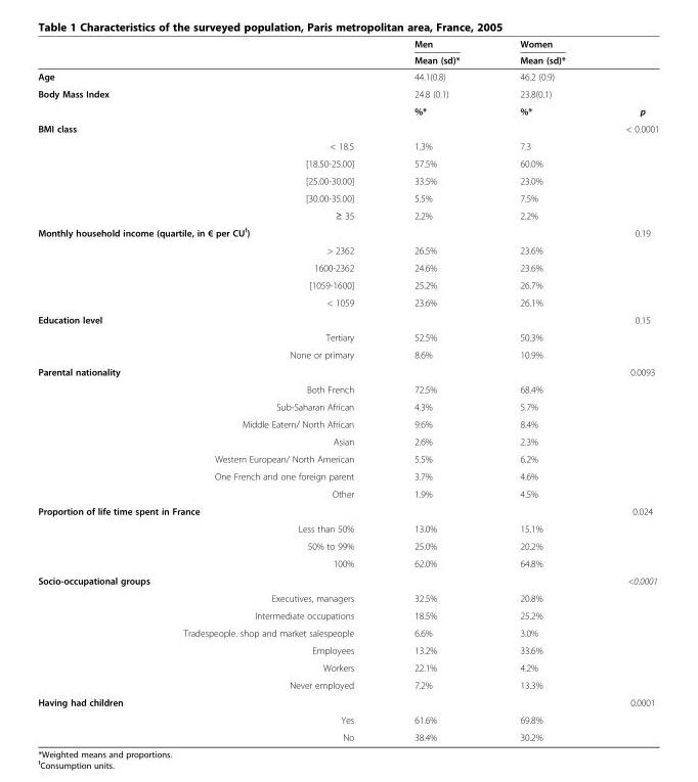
<table><thead><tr><td rowspan="2"></td><td rowspan="2"></td><td rowspan="2">Men Mean (sd)*</td><td rowspan="2">Women Mean (sd)*</td><td rowspan="2"></td></tr><tr></tr></thead><tbody><tr><td>Age</td><td></td><td>44.1(0.8)</td><td>46.2 (0.9)</td><td></td></tr><tr><td rowspan="2">Body Mass Index</td><td></td><td>24.8 (0.1)</td><td>23.8(0.1)</td><td></td></tr><tr><td></td><td>%*</td><td>%*</td><td>p</td></tr><tr><td colspan="2">BMI class</td><td></td><td></td><td>&lt; 0.0001</td></tr><tr><td></td><td>&lt; 18.5</td><td>1.3%</td><td>7.3</td><td></td></tr><tr><td></td><td>[18.50-25.00]</td><td>57.5%</td><td>60.0%</td><td></td></tr><tr><td></td><td>[25.00-30.00]</td><td>33.5%</td><td>23.0%</td><td></td></tr><tr><td></td><td>[30.00-35.00]</td><td>5.5%</td><td>7.5%</td><td></td></tr><tr><td></td><td>≥ 35</td><td>2.2%</td><td>2.2%</td><td></td></tr><tr><td colspan="2">Monthly household income (quartile, in € per CU<sup>Ɨ</sup>)</td><td></td><td></td><td>0.19</td></tr><tr><td></td><td>&gt; 2362</td><td>26.5%</td><td>23.6%</td><td></td></tr><tr><td></td><td>1600-2362</td><td>24.6%</td><td>23.6%</td><td></td></tr><tr><td></td><td>[1059-1600]</td><td>25.2%</td><td>26.7%</td><td></td></tr><tr><td></td><td>&lt; 1059</td><td>23.6%</td><td>26.1%</td><td></td></tr><tr><td colspan="2">Education level</td><td></td><td></td><td>0.15</td></tr><tr><td></td><td>Tertiary</td><td>52.5%</td><td>50.3%</td><td></td></tr><tr><td></td><td>None or primary</td><td>8.6%</td><td>10.9%</td><td></td></tr><tr><td colspan="2">Parental nationality</td><td></td><td></td><td>0.0093</td></tr><tr><td></td><td>Both French</td><td>72.5%</td><td>68.4%</td><td></td></tr><tr><td></td><td>Sub-Saharan African</td><td>4.3%</td><td>5.7%</td><td></td></tr><tr><td></td><td>Middle Eatern/ North African</td><td>9.6%</td><td>8.4%</td><td></td></tr><tr><td></td><td>Asian</td><td>2.6%</td><td>2.3%</td><td></td></tr><tr><td></td><td>Western European/ North American</td><td>5.5%</td><td>6.2%</td><td></td></tr><tr><td></td><td>One French and one foreign parent</td><td>3.7%</td><td>4.6%</td><td></td></tr><tr><td></td><td>Other</td><td>1.9%</td><td>4.5%</td><td></td></tr><tr><td colspan="2">Proportion of life time spent in France</td><td></td><td></td><td>0.024</td></tr><tr><td></td><td>Less than 50%</td><td>13.0%</td><td>15.1%</td><td></td></tr><tr><td></td><td>50% to 99%</td><td>25.0%</td><td>20.2%</td><td></td></tr><tr><td></td><td>100%</td><td>62.0%</td><td>64.8%</td><td></td></tr><tr><td colspan="2">Socio-occupational groups</td><td></td><td></td><td>&lt;0.0001</td></tr><tr><td></td><td>Executives, managers</td><td>32.5%</td><td>20.8%</td><td></td></tr><tr><td></td><td>Intermediate occupations</td><td>18.5%</td><td>25.2%</td><td></td></tr><tr><td></td><td>Tradespeople. shop and market salespeople</td><td>6.6%</td><td>3.0%</td><td></td></tr><tr><td></td><td>Employees</td><td>13.2%</td><td>33.6%</td><td></td></tr><tr><td></td><td>Workers</td><td>22.1%</td><td>4.2%</td><td></td></tr><tr><td></td><td>Never employed</td><td>7.2%</td><td>13.3%</td><td></td></tr><tr><td rowspan="3">Having had children</td><td></td><td></td><td></td><td>0.0001</td></tr><tr><td>Yes</td><td>61.6%</td><td>69.8%</td><td></td></tr><tr><td>No</td><td>38.4%</td><td>30.2%</td><td></td></tr></tbody></table>